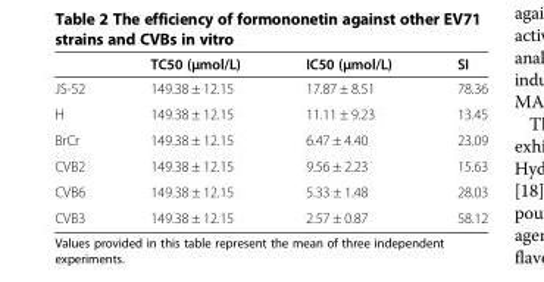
<table><thead><tr><td></td><td>TC50 (μmol/L)</td><td>IC50 (μmol/L)</td><td>SI</td></tr></thead><tbody><tr><td>JS-52</td><td>149.38 ± 12.15</td><td>17.87 ± 8.51</td><td>78.36</td></tr><tr><td>H</td><td>149.38 ± 12.15</td><td>11.11 ± 9.23</td><td>13.45</td></tr><tr><td>BrCr</td><td>149.38 ± 12.15</td><td>6.47 ± 4.40</td><td>23.09</td></tr><tr><td>CVB2</td><td>149.38 ± 12.15</td><td>9.56 ± 2.23</td><td>15.63</td></tr><tr><td>CVB6</td><td>149.38 ± 12.15</td><td>5.33 ± 1.48</td><td>28.03</td></tr><tr><td>CVB3</td><td>149.38 ± 12.15</td><td>2.57 ± 0.87</td><td>58.12</td></tr></tbody></table>